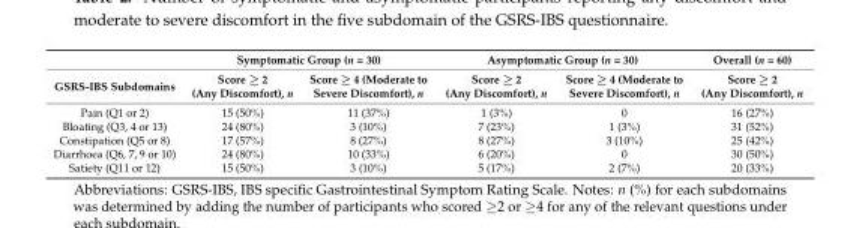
<table><thead><tr><td rowspan="2">GSRS-IBS Subdomains</td><td colspan="2">Symptomatic Group (n = 30)</td><td colspan="2">Asymptomatic Group (n = 30)</td><td rowspan="2">Overall (n = 60) Score ≥ 2 (Any Discomfort), n</td></tr><tr><td>Score ≥ 2 (Any Discomfort), n</td><td>Score ≥ 4 (Moderate to Severe Discomfort), n</td><td>Score ≥ 2 (Any Discomfort), n</td><td>Score ≥ 4 (Moderate to Severe Discomfort), n</td></tr></thead><tbody><tr><td>Pain (Q1 or 2)</td><td>15 (50%)</td><td>11 (37%)</td><td>1 (3%)</td><td>0</td><td>16 (27%)</td></tr><tr><td>Bloating (Q3, 4 or 13)</td><td>24 (80%)</td><td>3 (10%)</td><td>7 (23%)</td><td>1 (3%)</td><td>31 (52%)</td></tr><tr><td>Constipation (Q5 or 8)</td><td>17 (57%)</td><td>8 (27%)</td><td>8 (27%)</td><td>3 (10%)</td><td>25 (42%)</td></tr><tr><td>Diarrhoea (Q6, 7, 9 or 10)</td><td>24 (80%)</td><td>10 (33%)</td><td>6 (20%)</td><td>0</td><td>30 (50%)</td></tr><tr><td>Satiety (Q11 or 12)</td><td>15 (50%)</td><td>3 (10%)</td><td>5 (17%)</td><td>2 (7%)</td><td>20 (33%)</td></tr></tbody></table>